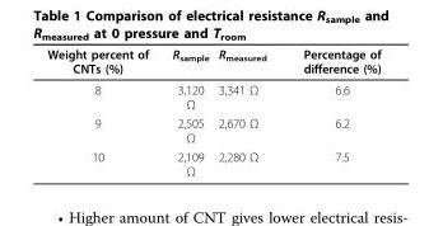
<table><thead><tr><td>Weight percent of CNTs (%)</td><td>R<sub>sample</sub></td><td>R<sub>measured</sub></td><td>Percentage of difference (%)</td></tr></thead><tbody><tr><td>8</td><td>3,120 Ω</td><td>3,341 Ω</td><td>6.6</td></tr><tr><td>9</td><td>2,505 Ω</td><td>2,670 Ω</td><td>6.2</td></tr><tr><td>10</td><td>2,109 Ω</td><td>2,280 Ω</td><td>7.5</td></tr></tbody></table>